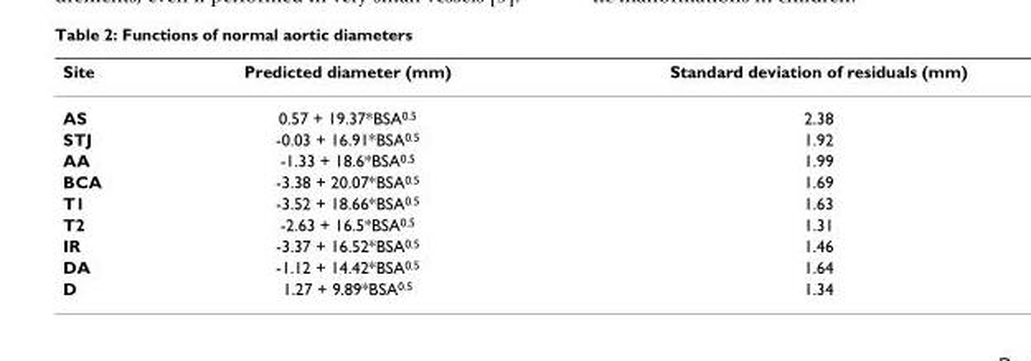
<table><thead><tr><td>Site</td><td>Predicted diameter (mm)</td><td>Standard deviation of residuals (mm)</td></tr></thead><tbody><tr><td>AS</td><td>0.57 + 19.37*BSA<sup>0.5</sup></td><td>2.38</td></tr><tr><td>STJ</td><td>-0.03 + 16.91*BSA<sup>0.5</sup></td><td>1.92</td></tr><tr><td>AA</td><td>-1.33 + 18.6*BSA<sup>0.5</sup></td><td>1.99</td></tr><tr><td>BCA</td><td>-3.38 + 20.07*BSA<sup>0.5</sup></td><td>1.69</td></tr><tr><td>T1</td><td>-3.52 + 18.66*BSA<sup>0.5</sup></td><td>1.63</td></tr><tr><td>T2</td><td>-2.63 + 16.5*BSA<sup>0.5</sup></td><td>1.31</td></tr><tr><td>IR</td><td>-3.37 + 16.52*BSA<sup>0.5</sup></td><td>1.46</td></tr><tr><td>DA</td><td>-1.12 + 14.42*BSA<sup>0.5</sup></td><td>1.64</td></tr><tr><td>D</td><td>1.27 + 9.89*BSA<sup>0.5</sup></td><td>1.34</td></tr></tbody></table>